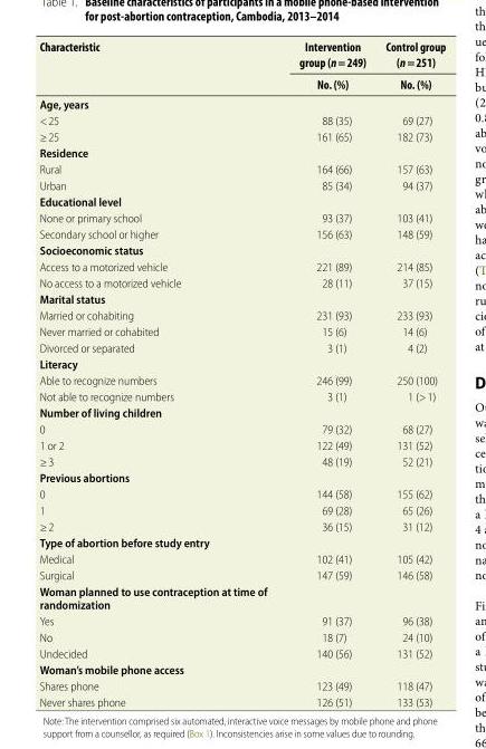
<table><thead><tr><td rowspan="2">Characteristic</td><td rowspan="2">Intervention group (n = 249) No. (%)</td><td rowspan="2">Control group (n = 251) No. (%)</td></tr><tr></tr></thead><tbody><tr><td colspan="3">Age, years</td></tr><tr><td>&lt; 25</td><td>88 (35)</td><td>69 (27)</td></tr><tr><td>≥ 25</td><td>161 (65)</td><td>182 (73)</td></tr><tr><td colspan="3">Residence</td></tr><tr><td>Rural</td><td>164 (66)</td><td>157 (63)</td></tr><tr><td>Urban</td><td>85 (34)</td><td>94 (37)</td></tr><tr><td colspan="3">Educational level</td></tr><tr><td>None or primary school</td><td>93 (37)</td><td>103 (41)</td></tr><tr><td>Secondary school or higher</td><td>156 (63)</td><td>148 (59)</td></tr><tr><td colspan="3">Socioeconomic status</td></tr><tr><td>Access to a motorized vehicle</td><td>221 (89)</td><td>214 (85)</td></tr><tr><td>No access to a motorized vehicle</td><td>28 (11)</td><td>37 (15)</td></tr><tr><td colspan="3">Marital status</td></tr><tr><td>Married or cohabiting</td><td>231 (93)</td><td>233 (93)</td></tr><tr><td>Never married or cohabited</td><td>15 (6)</td><td>14 (6)</td></tr><tr><td>Divorced or separated</td><td>3 (1)</td><td>4 (2)</td></tr><tr><td colspan="3">Literacy</td></tr><tr><td>Able to recognize numbers</td><td>246 (99)</td><td>250 (100)</td></tr><tr><td>Not able to recognize numbers</td><td>3 (1)</td><td>1 (&gt; 1)</td></tr><tr><td colspan="3">Number of living children</td></tr><tr><td>0</td><td>79 (32)</td><td>68 (27)</td></tr><tr><td>1 or 2</td><td>122 (49)</td><td>131 (52)</td></tr><tr><td>≥ 3</td><td>48 (19)</td><td>52 (21)</td></tr><tr><td colspan="3">Previous abortions</td></tr><tr><td>0</td><td>144 (58)</td><td>155 (62)</td></tr><tr><td>1</td><td>69 (28)</td><td>65 (26)</td></tr><tr><td>≥ 2</td><td>36 (15)</td><td>31 (12)</td></tr><tr><td colspan="3">Type of abortion before study entry</td></tr><tr><td>Medical</td><td>102 (41)</td><td>105 (42)</td></tr><tr><td>Surgical</td><td>147 (59)</td><td>146 (58)</td></tr><tr><td colspan="3">Woman planned to use contraception at time of randomization</td></tr><tr><td>Yes</td><td>91 (37)</td><td>96 (38)</td></tr><tr><td>No</td><td>18 (7)</td><td>24 (10)</td></tr><tr><td>Undecided</td><td>140 (56)</td><td>131 (52)</td></tr><tr><td colspan="3">Woman’s mobile phone access</td></tr><tr><td>Shares phone</td><td>123 (49)</td><td>118 (47)</td></tr><tr><td>Never shares phone</td><td>126 (51)</td><td>133 (53)</td></tr></tbody></table>